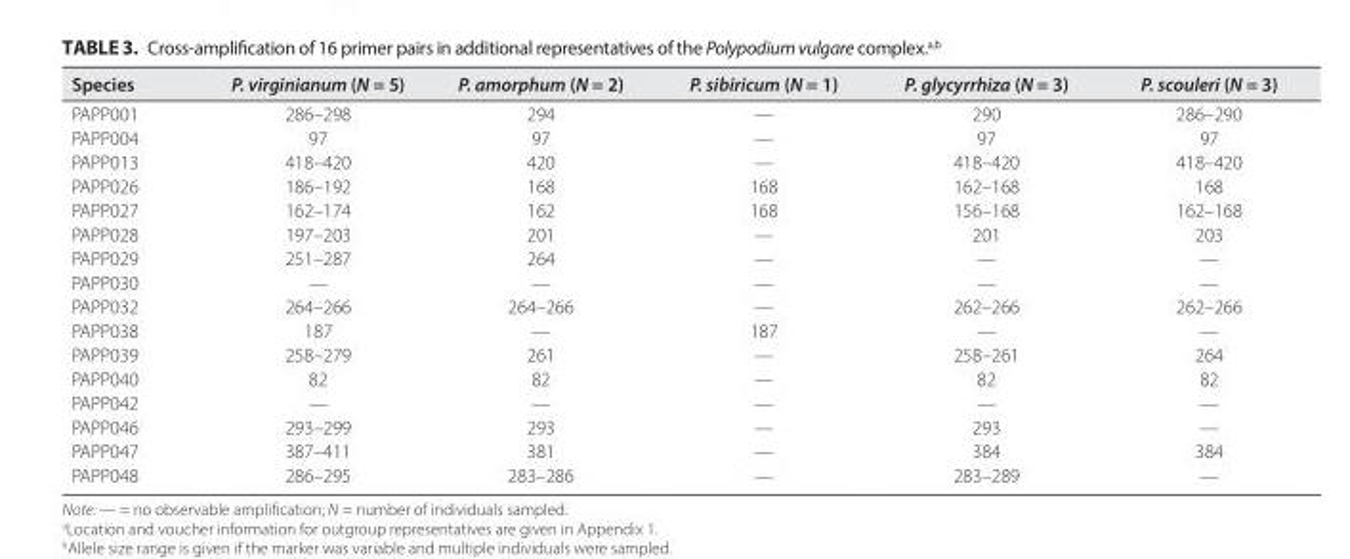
<table><thead><tr><td>Species</td><td>P. virginianum (N = 5)</td><td>P. amorphum (N = 2)</td><td>P. sibiricum (N = 1)</td><td>P. glycyrrhiza (N = 3)</td><td>P. scouleri (N = 3)</td></tr></thead><tbody><tr><td>PAPP001</td><td>286–298</td><td>294</td><td>—</td><td>290</td><td>286–290</td></tr><tr><td>PAPP004</td><td>97</td><td>97</td><td>—</td><td>97</td><td>97</td></tr><tr><td>PAPP013</td><td>418–420</td><td>420</td><td>—</td><td>418–420</td><td>418–420</td></tr><tr><td>PAPP026</td><td>186–192</td><td>168</td><td>168</td><td>162–168</td><td>168</td></tr><tr><td>PAPP027</td><td>162–174</td><td>162</td><td>168</td><td>156–168</td><td>162–168</td></tr><tr><td>PAPP028</td><td>197–203</td><td>201</td><td>—</td><td>201</td><td>203</td></tr><tr><td>PAPP029</td><td>251–287</td><td>264</td><td>—</td><td>—</td><td>—</td></tr><tr><td>PAPP030</td><td>—</td><td>—</td><td>—</td><td>—</td><td>—</td></tr><tr><td>PAPP032</td><td>264–266</td><td>264–266</td><td>—</td><td>262–266</td><td>262–266</td></tr><tr><td>PAPP038</td><td>187</td><td>—</td><td>187</td><td>—</td><td>—</td></tr><tr><td>PAPP039</td><td>258–279</td><td>261</td><td>—</td><td>258–261</td><td>264</td></tr><tr><td>PAPP040</td><td>82</td><td>82</td><td>—</td><td>82</td><td>82</td></tr><tr><td>PAPP042</td><td>—</td><td>—</td><td>—</td><td>—</td><td>—</td></tr><tr><td>PAPP046</td><td>293–299</td><td>293</td><td>—</td><td>293</td><td>—</td></tr><tr><td>PAPP047</td><td>387–411</td><td>381</td><td>—</td><td>384</td><td>384</td></tr><tr><td>PAPP048</td><td>286–295</td><td>283–286</td><td>—</td><td>283–289</td><td>—</td></tr></tbody></table>